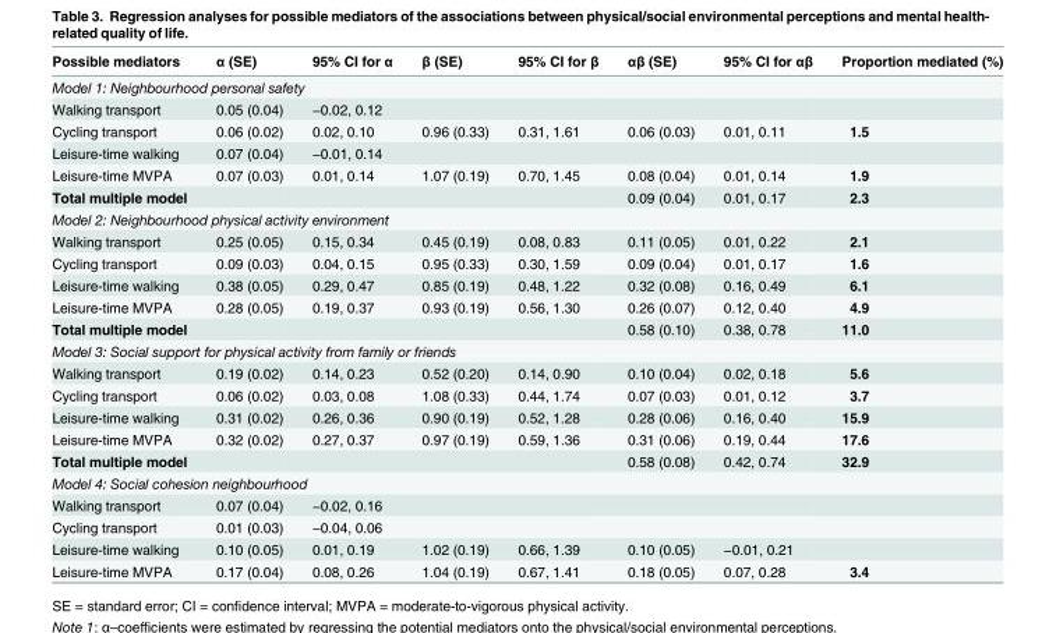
<table><thead><tr><td>Possible mediators</td><td>α (SE)</td><td>95% CI for α</td><td>β (SE)</td><td>95% CI for β</td><td>αβ (SE)</td><td>95% CI for αβ</td><td>Proportion mediated (%)</td></tr></thead><tbody><tr><td colspan="8">Model 1: Neighbourhood personal safety</td></tr><tr><td>Walking transport</td><td>0.05 (0.04)</td><td>−0.02, 0.12</td><td></td><td></td><td></td><td></td><td></td></tr><tr><td>Cycling transport</td><td>0.06 (0.02)</td><td>0.02, 0.10</td><td>0.96 (0.33)</td><td>0.31, 1.61</td><td>0.06 (0.03)</td><td>0.01, 0.11</td><td>1.5</td></tr><tr><td>Leisure-time walking</td><td>0.07 (0.04)</td><td>−0.01, 0.14</td><td></td><td></td><td></td><td></td><td></td></tr><tr><td>Leisure-time MVPA</td><td>0.07 (0.03)</td><td>0.01, 0.14</td><td>1.07 (0.19)</td><td>0.70, 1.45</td><td>0.08 (0.04)</td><td>0.01, 0.14</td><td>1.9</td></tr><tr><td>Total multiple model</td><td></td><td></td><td></td><td></td><td>0.09 (0.04)</td><td>0.01, 0.17</td><td>2.3</td></tr><tr><td colspan="8">Model 2: Neighbourhood physical activity environment</td></tr><tr><td>Walking transport</td><td>0.25 (0.05)</td><td>0.15, 0.34</td><td>0.45 (0.19)</td><td>0.08, 0.83</td><td>0.11 (0.05)</td><td>0.01, 0.22</td><td>2.1</td></tr><tr><td>Cycling transport</td><td>0.09 (0.03)</td><td>0.04, 0.15</td><td>0.95 (0.33)</td><td>0.30, 1.59</td><td>0.09 (0.04)</td><td>0.01, 0.17</td><td>1.6</td></tr><tr><td>Leisure-time walking</td><td>0.38 (0.05)</td><td>0.29, 0.47</td><td>0.85 (0.19)</td><td>0.48, 1.22</td><td>0.32 (0.08)</td><td>0.16, 0.49</td><td>6.1</td></tr><tr><td>Leisure-time MVPA</td><td>0.28 (0.05)</td><td>0.19, 0.37</td><td>0.93 (0.19)</td><td>0.56, 1.30</td><td>0.26 (0.07)</td><td>0.12, 0.40</td><td>4.9</td></tr><tr><td>Total multiple model</td><td></td><td></td><td></td><td></td><td>0.58 (0.10)</td><td>0.38, 0.78</td><td>11.0</td></tr><tr><td colspan="8">Model 3: Social support for physical activity from family or friends</td></tr><tr><td>Walking transport</td><td>0.19 (0.02)</td><td>0.14, 0.23</td><td>0.52 (0.20)</td><td>0.14, 0.90</td><td>0.10 (0.04)</td><td>0.02, 0.18</td><td>5.6</td></tr><tr><td>Cycling transport</td><td>0.06 (0.02)</td><td>0.03, 0.08</td><td>1.08 (0.33)</td><td>0.44, 1.74</td><td>0.07 (0.03)</td><td>0.01, 0.12</td><td>3.7</td></tr><tr><td>Leisure-time walking</td><td>0.31 (0.02)</td><td>0.26, 0.36</td><td>0.90 (0.19)</td><td>0.52, 1.28</td><td>0.28 (0.06)</td><td>0.16, 0.40</td><td>15.9</td></tr><tr><td>Leisure-time MVPA</td><td>0.32 (0.02)</td><td>0.27, 0.37</td><td>0.97 (0.19)</td><td>0.59, 1.36</td><td>0.31 (0.06)</td><td>0.19, 0.44</td><td>17.6</td></tr><tr><td>Total multiple model</td><td></td><td></td><td></td><td></td><td>0.58 (0.08)</td><td>0.42, 0.74</td><td>32.9</td></tr><tr><td colspan="8">Model 4: Social cohesion neighbourhood</td></tr><tr><td>Walking transport</td><td>0.07 (0.04)</td><td>−0.02, 0.16</td><td></td><td></td><td></td><td></td><td></td></tr><tr><td>Cycling transport</td><td>0.01 (0.03)</td><td>−0.04, 0.06</td><td></td><td></td><td></td><td></td><td></td></tr><tr><td>Leisure-time walking</td><td>0.10 (0.05)</td><td>0.01, 0.19</td><td>1.02 (0.19)</td><td>0.66, 1.39</td><td>0.10 (0.05)</td><td>−0.01, 0.21</td><td></td></tr><tr><td>Leisure-time MVPA</td><td>0.17 (0.04)</td><td>0.08, 0.26</td><td>1.04 (0.19)</td><td>0.67, 1.41</td><td>0.18 (0.05)</td><td>0.07, 0.28</td><td>3.4</td></tr></tbody></table>